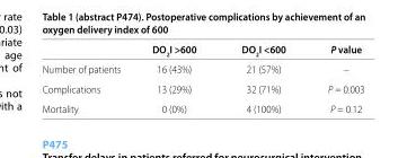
<table><thead><tr><td></td><td>DO<sub>2</sub>I &gt;600</td><td>DO<sub>2</sub>I &lt;600</td><td>P value</td></tr></thead><tbody><tr><td>Number of patients</td><td>16 (43%)</td><td>21 (57%)</td><td>–</td></tr><tr><td>Complications</td><td>13 (29%)</td><td>32 (71%)</td><td>P = 0.003</td></tr><tr><td>Mortality</td><td>0 (0%)</td><td>4 (100%)</td><td>P = 0.12</td></tr></tbody></table>